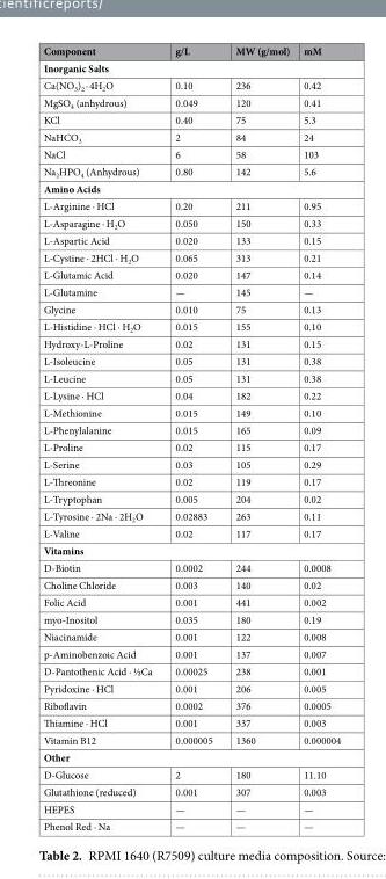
<table><thead><tr><td>Component</td><td>g/L</td><td>MW (g/mol)</td><td>mM</td></tr></thead><tbody><tr><td colspan="4">Inorganic Salts</td></tr><tr><td>Ca(NO<sub>3</sub>)<sub>2</sub> · 4H<sub>2</sub>O</td><td>0.10</td><td>236</td><td>0.42</td></tr><tr><td>MgSO<sub>4</sub> (anhydrous)</td><td>0.049</td><td>120</td><td>0.41</td></tr><tr><td>KCl</td><td>0.40</td><td>75</td><td>5.3</td></tr><tr><td>NaHCO<sub>3</sub></td><td>2</td><td>84</td><td>24</td></tr><tr><td>NaCl</td><td>6</td><td>58</td><td>103</td></tr><tr><td>Na<sub>2</sub>HPO<sub>4</sub> (Anhydrous)</td><td>0.80</td><td>142</td><td>5.6</td></tr><tr><td colspan="4">Amino Acids</td></tr><tr><td>L-Arginine · HCl</td><td>0.20</td><td>211</td><td>0.95</td></tr><tr><td>L-Asparagine · H<sub>2</sub>O</td><td>0.050</td><td>150</td><td>0.33</td></tr><tr><td>L-Aspartic Acid</td><td>0.020</td><td>133</td><td>0.15</td></tr><tr><td>L-Cystine · 2HCl · H<sub>2</sub>O</td><td>0.065</td><td>313</td><td>0.21</td></tr><tr><td>L-Glutamic Acid</td><td>0.020</td><td>147</td><td>0.14</td></tr><tr><td>L-Glutamine</td><td>—</td><td>145</td><td>—</td></tr><tr><td>Glycine</td><td>0.010</td><td>75</td><td>0.13</td></tr><tr><td>L-Histidine · HCl · H<sub>2</sub>O</td><td>0.015</td><td>155</td><td>0.10</td></tr><tr><td>Hydroxy-L-Proline</td><td>0.02</td><td>131</td><td>0.15</td></tr><tr><td>L-Isoleucine</td><td>0.05</td><td>131</td><td>0.38</td></tr><tr><td>L-Leucine</td><td>0.05</td><td>131</td><td>0.38</td></tr><tr><td>L-Lysine · HCl</td><td>0.04</td><td>182</td><td>0.22</td></tr><tr><td>L-Methionine</td><td>0.015</td><td>149</td><td>0.10</td></tr><tr><td>L-Phenylalanine</td><td>0.015</td><td>165</td><td>0.09</td></tr><tr><td>L-Proline</td><td>0.02</td><td>115</td><td>0.17</td></tr><tr><td>L-Serine</td><td>0.03</td><td>105</td><td>0.29</td></tr><tr><td>L-Threonine</td><td>0.02</td><td>119</td><td>0.17</td></tr><tr><td>L-Tryptophan</td><td>0.005</td><td>204</td><td>0.02</td></tr><tr><td>L-Tyrosine · 2Na · 2H<sub>2</sub>O</td><td>0.02883</td><td>263</td><td>0.11</td></tr><tr><td>L-Valine</td><td>0.02</td><td>117</td><td>0.17</td></tr><tr><td colspan="4">Vitamins</td></tr><tr><td>D-Biotin</td><td>0.0002</td><td>244</td><td>0.0008</td></tr><tr><td>Choline Chloride</td><td>0.003</td><td>140</td><td>0.02</td></tr><tr><td>Folic Acid</td><td>0.001</td><td>441</td><td>0.002</td></tr><tr><td>myo-Inositol</td><td>0.035</td><td>180</td><td>0.19</td></tr><tr><td>Niacinamide</td><td>0.001</td><td>122</td><td>0.008</td></tr><tr><td>p-Aminobenzoic Acid</td><td>0.001</td><td>137</td><td>0.007</td></tr><tr><td>D-Pantothenic Acid · ½Ca</td><td>0.00025</td><td>238</td><td>0.001</td></tr><tr><td>Pyridoxine · HCl</td><td>0.001</td><td>206</td><td>0.005</td></tr><tr><td>Riboflavin</td><td>0.0002</td><td>376</td><td>0.0005</td></tr><tr><td>Thiamine · HCl</td><td>0.001</td><td>337</td><td>0.003</td></tr><tr><td>Vitamin B12</td><td>0.000005</td><td>1360</td><td>0.000004</td></tr><tr><td colspan="4">Other</td></tr><tr><td>D-Glucose</td><td>2</td><td>180</td><td>11.10</td></tr><tr><td>Glutathione (reduced)</td><td>0.001</td><td>307</td><td>0.003</td></tr><tr><td>HEPES</td><td>—</td><td>—</td><td>—</td></tr><tr><td>Phenol Red · Na</td><td>—</td><td>—</td><td>—</td></tr></tbody></table>